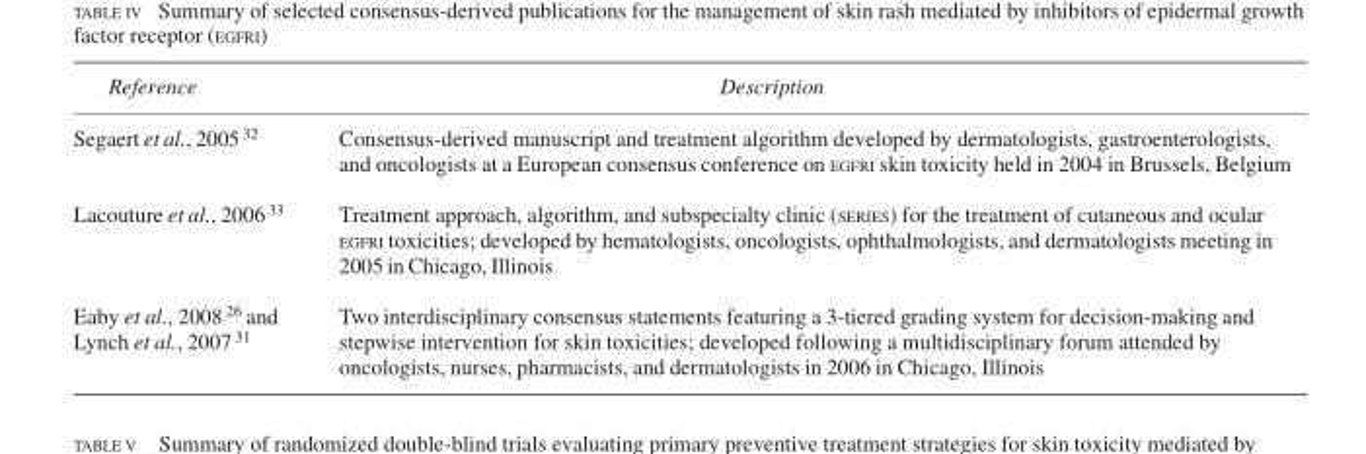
<table><thead><tr><td>Reference</td><td>Description</td></tr></thead><tbody><tr><td>Segaert et al., 2005 32</td><td>Consensus-derived manuscript and treatment algorithm developed by dermatologists, gastroenterologists, and oncologists at a European consensus conference on EGFRI skin toxicity held in 2004 in Brussels, Belgium</td></tr><tr><td>Lacouture et al., 2006 33</td><td>Treatment approach, algorithm, and subspecialty clinic (SERIES) for the treatment of cutaneous and ocular EGFRI toxicities; developed by hematologists, oncologists, ophthalmologists, and dermatologists meeting in 2005 in Chicago, Illinois</td></tr><tr><td>Eaby et al., 2008 26 and Lynch et al., 2007 31</td><td>Two interdisciplinary consensus statements featuring a 3-tiered grading system for decision-making and stepwise intervention for skin toxicities; developed following a multidisciplinary forum attended by oncologists, nurses, pharmacists, and dermatologists in 2006 in Chicago, Illinois</td></tr></tbody></table>